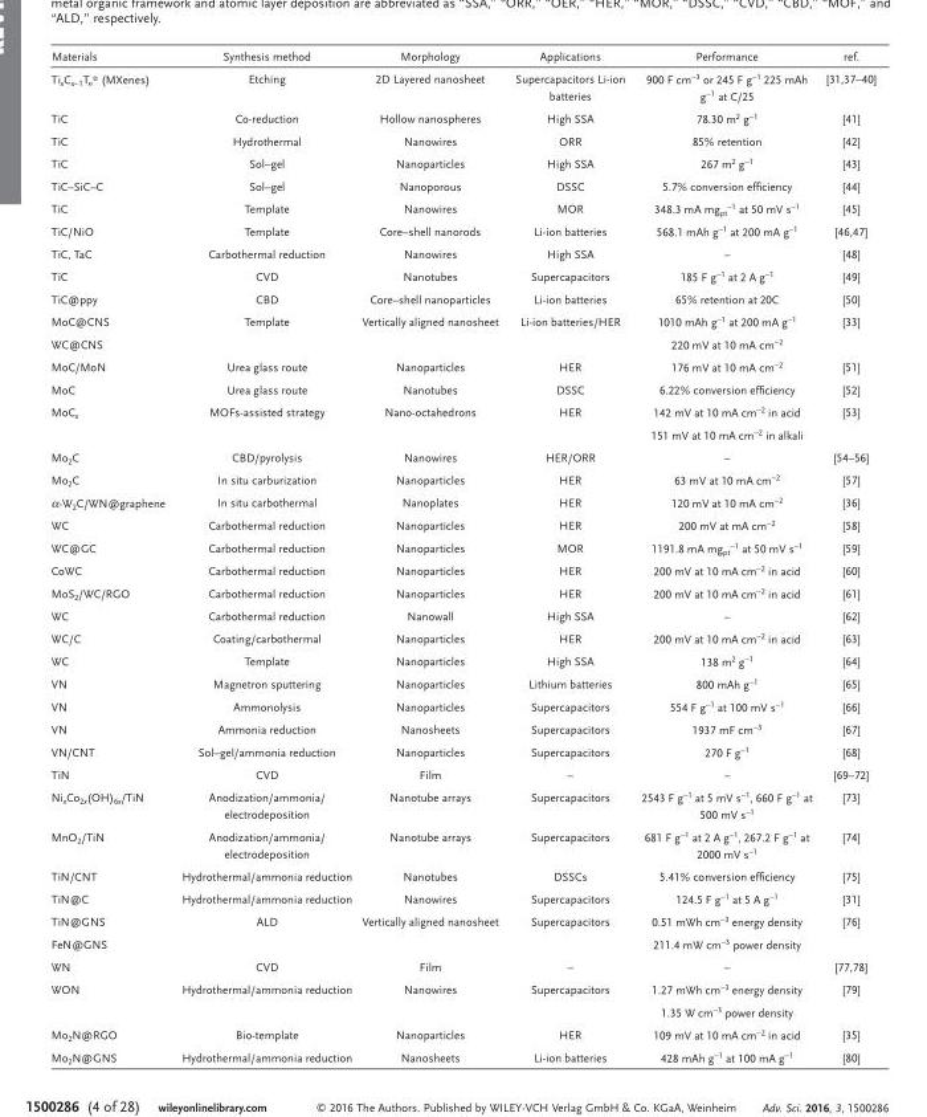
<table><thead><tr><td>Materials</td><td>Synthesis method</td><td>Morphology</td><td>Applications</td><td>Performance</td><td>ref.</td></tr></thead><tbody><tr><td>Ti <sub>x</sub> C <sub>x −1</sub> T <sub>n</sub> * (MXenes)</td><td>Etching</td><td>2D Layered nanosheet</td><td>Supercapacitors Li-ion batteries</td><td>900 F cm <sup>−3</sup> or 245 F g <sup>−1</sup> 225 mAh g <sup>−1</sup> at C/25</td><td>[31,37–40]</td></tr><tr><td>TiC</td><td>Co-reduction</td><td>Hollow nanospheres</td><td>High SSA</td><td>78.30 m <sup>2</sup> g <sup>−1</sup></td><td>[41]</td></tr><tr><td>TiC</td><td>Hydrothermal</td><td>Nanowires</td><td>ORR</td><td>85% retention</td><td>[42]</td></tr><tr><td>TiC</td><td>Sol–gel</td><td>Nanoparticles</td><td>High SSA</td><td>267 m <sup>2</sup> g <sup>−1</sup></td><td>[43]</td></tr><tr><td>TiC–SiC–C</td><td>Sol–gel</td><td>Nanoporous</td><td>DSSC</td><td>5.7% conversion effi ciency</td><td>[44]</td></tr><tr><td>TiC</td><td>Template</td><td>Nanowires</td><td>MOR</td><td>348.3 mA mg <sub>pt</sub> <sup>−1</sup> at 50 mV s <sup>−1</sup></td><td>[45]</td></tr><tr><td>TiC/NiO</td><td>Template</td><td>Core–shell nanorods</td><td>Li-ion batteries</td><td>568.1 mAh g <sup>−1</sup> at 200 mA g <sup>−1</sup></td><td>[46,47]</td></tr><tr><td>TiC, TaC</td><td>Carbothermal reduction</td><td>Nanowires</td><td>High SSA</td><td>–</td><td>[48]</td></tr><tr><td>TiC</td><td>CVD</td><td>Nanotubes</td><td>Supercapacitors</td><td>185 F g <sup>−1</sup> at 2 A g <sup>−1</sup></td><td>[49]</td></tr><tr><td>TiC@ppy</td><td>CBD</td><td>Core–shell nanoparticles</td><td>Li-ion batteries</td><td>65% retention at 20C</td><td>[50]</td></tr><tr><td>MoC@CNS</td><td>Template</td><td>Vertically aligned nanosheet</td><td>Li-ion batteries/HER</td><td>1010 mAh g <sup>−1</sup> at 200 mA g <sup>−1</sup></td><td>[33]</td></tr><tr><td>WC@CNS</td><td></td><td></td><td></td><td>220 mV at 10 mA cm <sup>−2</sup></td><td></td></tr><tr><td>MoC/MoN</td><td>Urea glass route</td><td>Nanoparticles</td><td>HER</td><td>176 mV at 10 mA cm <sup>−2</sup></td><td>[51]</td></tr><tr><td>MoC</td><td>Urea glass route</td><td>Nanotubes</td><td>DSSC</td><td>6.22% conversion effi ciency</td><td>[52]</td></tr><tr><td rowspan="2">MoC <sub>x</sub></td><td>MOFs-assisted strategy</td><td>Nano-octahedrons</td><td>HER</td><td>142 mV at 10 mA cm <sup>−2</sup> in acid</td><td>[53]</td></tr><tr><td></td><td></td><td></td><td>151 mV at 10 mA cm <sup>−2</sup> in alkali</td><td></td></tr><tr><td>Mo <sub>2</sub> C</td><td>CBD/pyrolysis</td><td>Nanowires</td><td>HER/ORR</td><td>–</td><td>[54–56]</td></tr><tr><td>Mo <sub>2</sub> C</td><td>In situ carburization</td><td>Nanoparticles</td><td>HER</td><td>63 mV at 10 mA cm <sup>−2</sup></td><td>[57]</td></tr><tr><td>α-W <sub>2</sub> C/WN@graphene</td><td>In situ carbothermal</td><td>Nanoplates</td><td>HER</td><td>120 mV at 10 mA cm <sup>−2</sup></td><td>[36]</td></tr><tr><td>WC</td><td>Carbothermal reduction</td><td>Nanoparticles</td><td>HER</td><td>200 mV at mA cm <sup>−2</sup></td><td>[58]</td></tr><tr><td>WC@GC</td><td>Carbothermal reduction</td><td>Nanoparticles</td><td>MOR</td><td>1191.8 mA mg <sub>pt</sub> <sup>−1</sup> at 50 mV s <sup>−1</sup></td><td>[59]</td></tr><tr><td>CoWC</td><td>Carbothermal reduction</td><td>Nanoparticles</td><td>HER</td><td>200 mV at 10 mA cm <sup>−2</sup> in acid</td><td>[60]</td></tr><tr><td>MoS <sub>2</sub> /WC/RGO</td><td>Carbothermal reduction</td><td>Nanoparticles</td><td>HER</td><td>200 mV at 10 mA cm <sup>−2</sup> in acid</td><td>[61]</td></tr><tr><td>WC</td><td>Carbothermal reduction</td><td>Nanowall</td><td>High SSA</td><td>–</td><td>[62]</td></tr><tr><td>WC/C</td><td>Coating/carbothermal</td><td>Nanoparticles</td><td>HER</td><td>200 mV at 10 mA cm <sup>−2</sup> in acid</td><td>[63]</td></tr><tr><td>WC</td><td>Template</td><td>Nanoparticles</td><td>High SSA</td><td>138 m <sup>2</sup> g <sup>−1</sup></td><td>[64]</td></tr><tr><td>VN</td><td>Magnetron sputtering</td><td>Nanoparticles</td><td>Lithium batteries</td><td>800 mAh g <sup>−1</sup></td><td>[65]</td></tr><tr><td>VN</td><td>Ammonolysis</td><td>Nanoparticles</td><td>Supercapacitors</td><td>554 F g <sup>−1</sup> at 100 mV s <sup>−1</sup></td><td>[66]</td></tr><tr><td>VN</td><td>Ammonia reduction</td><td>Nanosheets</td><td>Supercapacitors</td><td>1937 mF cm <sup>−3</sup></td><td>[67]</td></tr><tr><td>VN/CNT</td><td>Sol–gel/ammonia reduction</td><td>Nanoparticles</td><td>Supercapacitors</td><td>270 F g <sup>−1</sup></td><td>[68]</td></tr><tr><td>TiN</td><td>CVD</td><td>Film</td><td>–</td><td>–</td><td>[69–72]</td></tr><tr><td>Ni <sub>x</sub> Co <sub>2 x</sub> (OH) <sub>6 x</sub> /TiN</td><td>Anodization/ammonia/ electrodeposition</td><td>Nanotube arrays</td><td>Supercapacitors</td><td>2543 F g <sup>−1</sup> at 5 mV s <sup>−1</sup> , 660 F g <sup>−1</sup> at 500 mV s <sup>−1</sup></td><td>[73]</td></tr><tr><td>MnO <sub>2</sub> /TiN</td><td>Anodization/ammonia/ electrodeposition</td><td>Nanotube arrays</td><td>Supercapacitors</td><td>681 F g <sup>−1</sup> at 2 A g <sup>−1</sup> , 267.2 F g <sup>−1</sup> at 2000 mV s <sup>−1</sup></td><td>[74]</td></tr><tr><td>TiN/CNT</td><td>Hydrothermal/ammonia reduction</td><td>Nanotubes</td><td>DSSCs</td><td>5.41% conversion effi ciency</td><td>[75]</td></tr><tr><td>TiN@C</td><td>Hydrothermal/ammonia reduction</td><td>Nanowires</td><td>Supercapacitors</td><td>124.5 F g <sup>−1</sup> at 5 A g <sup>−1</sup></td><td>[31]</td></tr><tr><td>TiN@GNS</td><td>ALD</td><td>Vertically aligned nanosheet</td><td>Supercapacitors</td><td>0.51 mWh cm <sup>−3</sup> energy density</td><td>[76]</td></tr><tr><td>FeN@GNS</td><td></td><td></td><td></td><td>211.4 mW cm <sup>−3</sup> power density</td><td></td></tr><tr><td>WN</td><td>CVD</td><td>Film</td><td>–</td><td>–</td><td>[77,78]</td></tr><tr><td rowspan="2">WON</td><td>Hydrothermal/ammonia reduction</td><td>Nanowires</td><td>Supercapacitors</td><td>1.27 mWh cm <sup>−3</sup> energy density</td><td>[79]</td></tr><tr><td></td><td></td><td></td><td>1.35 W cm <sup>−3</sup> power density</td><td></td></tr><tr><td>Mo <sub>2</sub> N@RGO</td><td>Bio-template</td><td>Nanoparticles</td><td>HER</td><td>109 mV at 10 mA cm <sup>−2</sup> in acid</td><td>[35]</td></tr><tr><td>Mo <sub>2</sub> N@GNS</td><td>Hydrothermal/ammonia reduction</td><td>Nanosheets</td><td>Li-ion batteries</td><td>428 mAh g <sup>−1</sup> at 100 mA g <sup>−1</sup></td><td>[80]</td></tr></tbody></table>